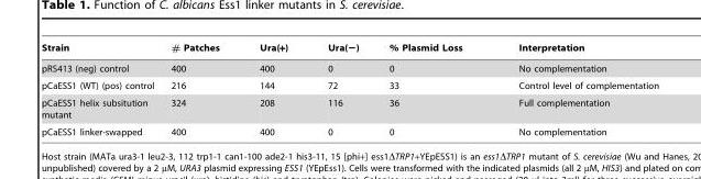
<table><thead><tr><td>Strain</td><td># Patches</td><td>Ura(+)</td><td>Ura(−)</td><td>% Plasmid Loss</td><td>Interpretation</td></tr></thead><tbody><tr><td>pRS413 (neg) control</td><td>400</td><td>400</td><td>0</td><td>0</td><td>No complementation</td></tr><tr><td>pCaESS1 (WT) (pos) control</td><td>216</td><td>144</td><td>72</td><td>33</td><td>Control level of complementation</td></tr><tr><td>pCaESS1 helix subsitution mutant</td><td>324</td><td>208</td><td>116</td><td>36</td><td>Full complementation</td></tr><tr><td>pCaESS1 linker-swapped</td><td>400</td><td>400</td><td>0</td><td>0</td><td>No complementation</td></tr></tbody></table>